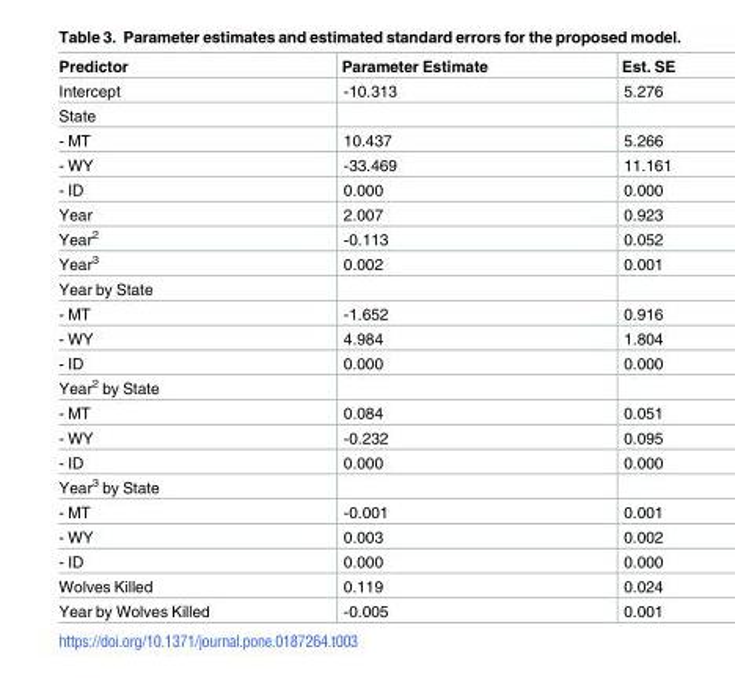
<table><thead><tr><td>Predictor</td><td>Parameter Estimate</td><td>Est. SE</td></tr></thead><tbody><tr><td>Intercept</td><td>-10.313</td><td>5.276</td></tr><tr><td colspan="3">State</td></tr><tr><td>- MT</td><td>10.437</td><td>5.266</td></tr><tr><td>- WY</td><td>-33.469</td><td>11.161</td></tr><tr><td>- ID</td><td>0.000</td><td>0.000</td></tr><tr><td>Year</td><td>2.007</td><td>0.923</td></tr><tr><td>Year<sup>2</sup></td><td>-0.113</td><td>0.052</td></tr><tr><td>Year<sup>3</sup></td><td>0.002</td><td>0.001</td></tr><tr><td colspan="3">Year by State</td></tr><tr><td>- MT</td><td>-1.652</td><td>0.916</td></tr><tr><td>- WY</td><td>4.984</td><td>1.804</td></tr><tr><td>- ID</td><td>0.000</td><td>0.000</td></tr><tr><td colspan="3">Year<sup>2</sup> by State</td></tr><tr><td>- MT</td><td>0.084</td><td>0.051</td></tr><tr><td>- WY</td><td>-0.232</td><td>0.095</td></tr><tr><td>- ID</td><td>0.000</td><td>0.000</td></tr><tr><td colspan="3">Year<sup>3</sup> by State</td></tr><tr><td>- MT</td><td>-0.001</td><td>0.001</td></tr><tr><td>- WY</td><td>0.003</td><td>0.002</td></tr><tr><td>- ID</td><td>0.000</td><td>0.000</td></tr><tr><td>Wolves Killed</td><td>0.119</td><td>0.024</td></tr><tr><td>Year by Wolves Killed</td><td>-0.005</td><td>0.001</td></tr></tbody></table>